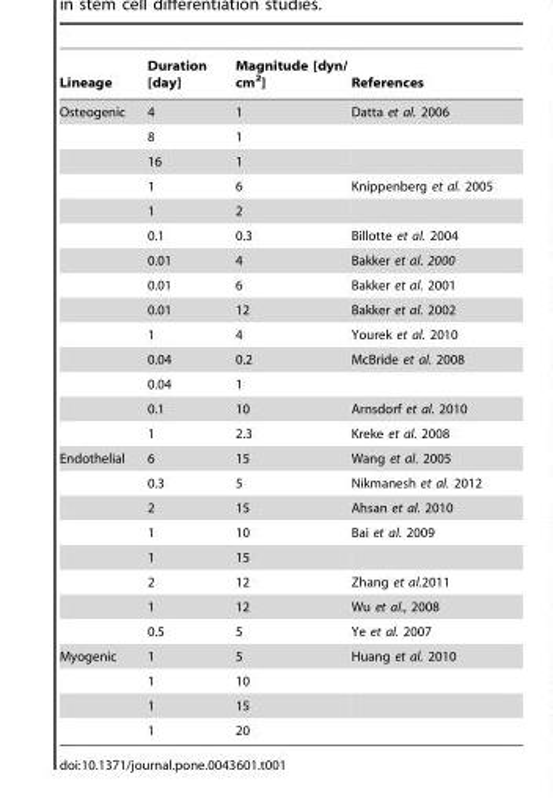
<table><thead><tr><td>Lineage</td><td>Duration [day]</td><td>Magnitude [dyn/ cm<sup>2</sup>]</td><td>References</td></tr></thead><tbody><tr><td rowspan="14">Osteogenic</td><td>4</td><td>1</td><td>Datta et al. 2006</td></tr><tr><td>8</td><td>1</td><td></td></tr><tr><td>16</td><td>1</td><td></td></tr><tr><td>1</td><td>6</td><td>Knippenberg et al. 2005</td></tr><tr><td>1</td><td>2</td><td></td></tr><tr><td>0.1</td><td>0.3</td><td>Billotte et al. 2004</td></tr><tr><td>0.01</td><td>4</td><td>Bakker et al. 2000</td></tr><tr><td>0.01</td><td>6</td><td>Bakker et al. 2001</td></tr><tr><td>0.01</td><td>12</td><td>Bakker et al. 2002</td></tr><tr><td>1</td><td>4</td><td>Yourek et al. 2010</td></tr><tr><td>0.04</td><td>0.2</td><td>McBride et al. 2008</td></tr><tr><td>0.04</td><td>1</td><td></td></tr><tr><td>0.1</td><td>10</td><td>Arnsdorf et al. 2010</td></tr><tr><td>1</td><td>2.3</td><td>Kreke et al. 2008</td></tr><tr><td rowspan="8">Endothelial</td><td>6</td><td>15</td><td>Wang et al. 2005</td></tr><tr><td>0.3</td><td>5</td><td>Nikmanesh et al. 2012</td></tr><tr><td>2</td><td>15</td><td>Ahsan et al. 2010</td></tr><tr><td>1</td><td>10</td><td>Bai et al. 2009</td></tr><tr><td>1</td><td>15</td><td></td></tr><tr><td>2</td><td>12</td><td>Zhang et al.2011</td></tr><tr><td>1</td><td>12</td><td>Wu et al., 2008</td></tr><tr><td>0.5</td><td>5</td><td>Ye et al. 2007</td></tr><tr><td rowspan="4">Myogenic</td><td>1</td><td>5</td><td>Huang et al. 2010</td></tr><tr><td>1</td><td>10</td><td></td></tr><tr><td>1</td><td>15</td><td></td></tr><tr><td>1</td><td>20</td><td></td></tr></tbody></table>